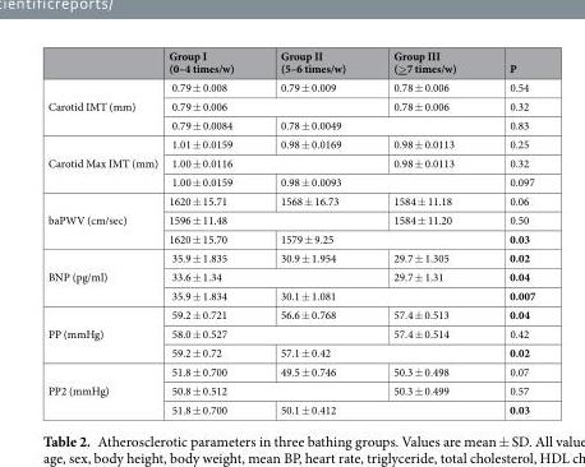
<table><thead><tr><td></td><td>Group I (0–4 times/w)</td><td>Group II (5–6 times/w)</td><td>Group III (&gt;7 times/w)</td><td>P</td></tr></thead><tbody><tr><td rowspan="3">Carotid IMT (mm)</td><td>0.79 ± 0.008</td><td>0.79 ± 0.009</td><td>0.78 ± 0.006</td><td>0.54</td></tr><tr><td colspan="2">0.79 ± 0.006</td><td>0.78 ± 0.006</td><td>0.32</td></tr><tr><td>0.79 ± 0.0084</td><td colspan="2">0.78 ± 0.0049</td><td>0.83</td></tr><tr><td rowspan="3">Carotid Max IMT (mm)</td><td>1.01 ± 0.0159</td><td>0.98 ± 0.0169</td><td>0.98 ± 0.0113</td><td>0.25</td></tr><tr><td colspan="2">1.00 ± 0.0116</td><td>0.98 ± 0.0113</td><td>0.32</td></tr><tr><td>1.00 ± 0.0159</td><td colspan="2">0.98 ± 0.0093</td><td>0.097</td></tr><tr><td rowspan="3">baPWV (cm/sec)</td><td>1620 ± 15.71</td><td>1568 ± 16.73</td><td>1584 ± 11.18</td><td>0.06</td></tr><tr><td colspan="2">1596 ± 11.48</td><td>1584 ± 11.20</td><td>0.50</td></tr><tr><td>1620 ± 15.70</td><td colspan="2">1579 ± 9.25</td><td>0.03</td></tr><tr><td rowspan="3">BNP (pg/ml)</td><td>35.9 ± 1.835</td><td>30.9 ± 1.954</td><td>29.7 ± 1.305</td><td>0.02</td></tr><tr><td colspan="2">33.6 ± 1.34</td><td>29.7 ± 1.31</td><td>0.04</td></tr><tr><td>35.9 ± 1.834</td><td colspan="2">30.1 ± 1.081</td><td>0.007</td></tr><tr><td rowspan="3">PP (mmHg)</td><td>59.2 ± 0.721</td><td>56.6 ± 0.768</td><td>57.4 ± 0.513</td><td>0.04</td></tr><tr><td colspan="2">58.0 ± 0.527</td><td>57.4 ± 0.514</td><td>0.42</td></tr><tr><td>59.2 ± 0.72</td><td colspan="2">57.1 ± 0.42</td><td>0.02</td></tr><tr><td rowspan="3">PP2 (mmHg)</td><td>51.8 ± 0.700</td><td>49.5 ± 0.746</td><td>50.3 ± 0.498</td><td>0.07</td></tr><tr><td colspan="2">50.8 ± 0.512</td><td>50.3 ± 0.499</td><td>0.57</td></tr><tr><td>51.8 ± 0.700</td><td colspan="2">50.1 ± 0.412</td><td>0.03</td></tr></tbody></table>